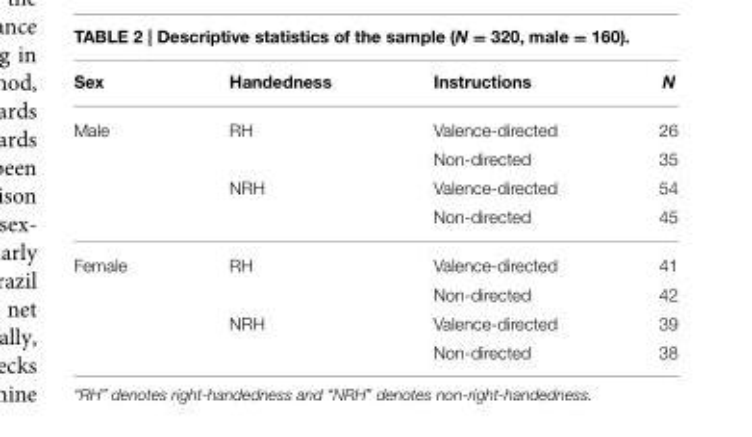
<table><thead><tr><td>Sex</td><td>Handedness</td><td>Instructions</td><td>N</td></tr></thead><tbody><tr><td rowspan="4">Male</td><td>RH</td><td>Valence-directed</td><td>26</td></tr><tr><td></td><td>Non-directed</td><td>35</td></tr><tr><td>NRH</td><td>Valence-directed</td><td>54</td></tr><tr><td></td><td>Non-directed</td><td>45</td></tr><tr><td rowspan="4">Female</td><td>RH</td><td>Valence-directed</td><td>41</td></tr><tr><td></td><td>Non-directed</td><td>42</td></tr><tr><td>NRH</td><td>Valence-directed</td><td>39</td></tr><tr><td></td><td>Non-directed</td><td>38</td></tr></tbody></table>